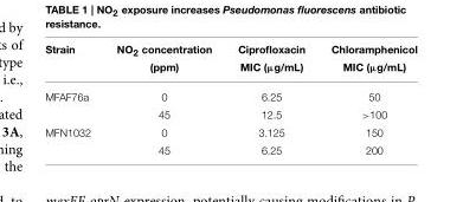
<table><thead><tr><td rowspan="2">Strain</td><td rowspan="2">NO<sub>2</sub> concentration (ppm)</td><td rowspan="2">Ciprofloxacin MIC (µg/mL)</td><td rowspan="2">Chloramphenicol MIC (µg/mL)</td></tr><tr></tr></thead><tbody><tr><td rowspan="2">MFAF76a</td><td>0</td><td>6.25</td><td>50</td></tr><tr><td>45</td><td>12.5</td><td>&gt;100</td></tr><tr><td rowspan="2">MFN1032</td><td>0</td><td>3.125</td><td>150</td></tr><tr><td>45</td><td>6.25</td><td>200</td></tr></tbody></table>